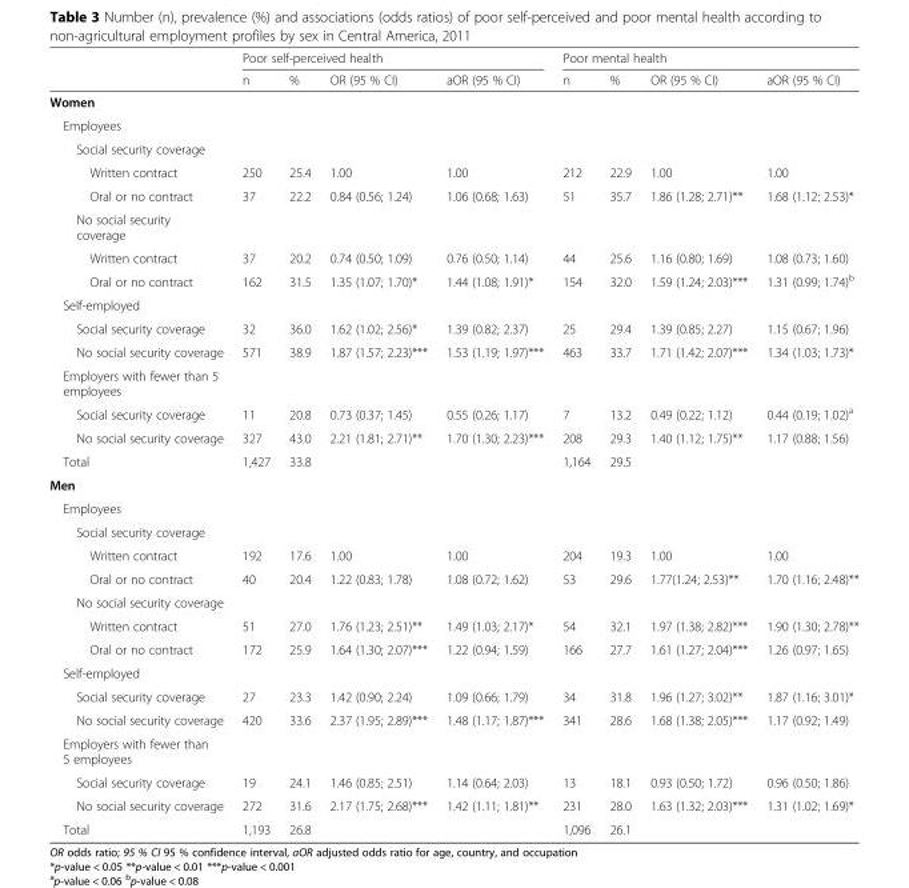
<table><thead><tr><td rowspan="2"></td><td colspan="4">Poor self-perceived health</td><td colspan="4">Poor mental health</td></tr><tr><td>n</td><td>%</td><td>OR (95 % CI)</td><td>aOR (95 % CI)</td><td>n</td><td>%</td><td>OR (95 % CI)</td><td>aOR (95 % CI)</td></tr></thead><tbody><tr><td colspan="9">Women</td></tr><tr><td colspan="9">Employees</td></tr><tr><td colspan="9">Social security coverage</td></tr><tr><td>Written contract</td><td>250</td><td>25.4</td><td>1.00</td><td>1.00</td><td>212</td><td>22.9</td><td>1.00</td><td>1.00</td></tr><tr><td>Oral or no contract</td><td>37</td><td>22.2</td><td>0.84 (0.56; 1.24)</td><td>1.06 (0.68; 1.63)</td><td>51</td><td>35.7</td><td>1.86 (1.28; 2.71)**</td><td>1.68 (1.12; 2.53)*</td></tr><tr><td colspan="9">No social security coverage</td></tr><tr><td>Written contract</td><td>37</td><td>20.2</td><td>0.74 (0.50; 1.09)</td><td>0.76 (0.50; 1.14)</td><td>44</td><td>25.6</td><td>1.16 (0.80; 1.69)</td><td>1.08 (0.73; 1.60)</td></tr><tr><td>Oral or no contract</td><td>162</td><td>31.5</td><td>1.35 (1.07; 1.70)*</td><td>1.44 (1.08; 1.91)*</td><td>154</td><td>32.0</td><td>1.59 (1.24; 2.03)***</td><td>1.31 (0.99; 1.74)<sup>b</sup></td></tr><tr><td colspan="9">Self-employed</td></tr><tr><td>Social security coverage</td><td>32</td><td>36.0</td><td>1.62 (1.02; 2.56)*</td><td>1.39 (0.82; 2.37)</td><td>25</td><td>29.4</td><td>1.39 (0.85; 2.27)</td><td>1.15 (0.67; 1.96)</td></tr><tr><td>No social security coverage</td><td>571</td><td>38.9</td><td>1.87 (1.57; 2.23)***</td><td>1.53 (1.19; 1.97)***</td><td>463</td><td>33.7</td><td>1.71 (1.42; 2.07)***</td><td>1.34 (1.03; 1.73)*</td></tr><tr><td colspan="9">Employers with fewer than 5 employees</td></tr><tr><td>Social security coverage</td><td>11</td><td>20.8</td><td>0.73 (0.37; 1.45)</td><td>0.55 (0.26; 1.17)</td><td>7</td><td>13.2</td><td>0.49 (0.22; 1.12)</td><td>0.44 (0.19; 1.02)<sup>a</sup></td></tr><tr><td>No social security coverage</td><td>327</td><td>43.0</td><td>2.21 (1.81; 2.71)**</td><td>1.70 (1.30; 2.23)***</td><td>208</td><td>29.3</td><td>1.40 (1.12; 1.75)**</td><td>1.17 (0.88; 1.56)</td></tr><tr><td>Total</td><td>1,427</td><td>33.8</td><td></td><td></td><td>1,164</td><td>29.5</td><td></td><td></td></tr><tr><td colspan="9">Men</td></tr><tr><td colspan="9">Employees</td></tr><tr><td colspan="9">Social security coverage</td></tr><tr><td>Written contract</td><td>192</td><td>17.6</td><td>1.00</td><td>1.00</td><td>204</td><td>19.3</td><td>1.00</td><td>1.00</td></tr><tr><td>Oral or no contract</td><td>40</td><td>20.4</td><td>1.22 (0.83; 1.78)</td><td>1.08 (0.72; 1.62)</td><td>53</td><td>29.6</td><td>1.77(1.24; 2.53)**</td><td>1.70 (1.16; 2.48)**</td></tr><tr><td colspan="9">No social security coverage</td></tr><tr><td>Written contract</td><td>51</td><td>27.0</td><td>1.76 (1.23; 2.51)**</td><td>1.49 (1.03; 2.17)*</td><td>54</td><td>32.1</td><td>1.97 (1.38; 2.82)***</td><td>1.90 (1.30; 2.78)**</td></tr><tr><td>Oral or no contract</td><td>172</td><td>25.9</td><td>1.64 (1.30; 2.07)***</td><td>1.22 (0.94; 1.59)</td><td>166</td><td>27.7</td><td>1.61 (1.27; 2.04)***</td><td>1.26 (0.97; 1.65)</td></tr><tr><td colspan="9">Self-employed</td></tr><tr><td>Social security coverage</td><td>27</td><td>23.3</td><td>1.42 (0.90; 2.24)</td><td>1.09 (0.66; 1.79)</td><td>34</td><td>31.8</td><td>1.96 (1.27; 3.02)**</td><td>1.87 (1.16; 3.01)*</td></tr><tr><td>No social security coverage</td><td>420</td><td>33.6</td><td>2.37 (1.95; 2.89)***</td><td>1.48 (1.17; 1.87)***</td><td>341</td><td>28.6</td><td>1.68 (1.38; 2.05)***</td><td>1.17 (0.92; 1.49)</td></tr><tr><td colspan="9">Employers with fewer than 5 employees</td></tr><tr><td>Social security coverage</td><td>19</td><td>24.1</td><td>1.46 (0.85; 2.51)</td><td>1.14 (0.64; 2.03)</td><td>13</td><td>18.1</td><td>0.93 (0.50; 1.72)</td><td>0.96 (0.50; 1.86)</td></tr><tr><td>No social security coverage</td><td>272</td><td>31.6</td><td>2.17 (1.75; 2.68)***</td><td>1.42 (1.11; 1.81)**</td><td>231</td><td>28.0</td><td>1.63 (1.32; 2.03)***</td><td>1.31 (1.02; 1.69)*</td></tr><tr><td>Total</td><td>1,193</td><td>26.8</td><td></td><td></td><td>1,096</td><td>26.1</td><td></td><td></td></tr></tbody></table>